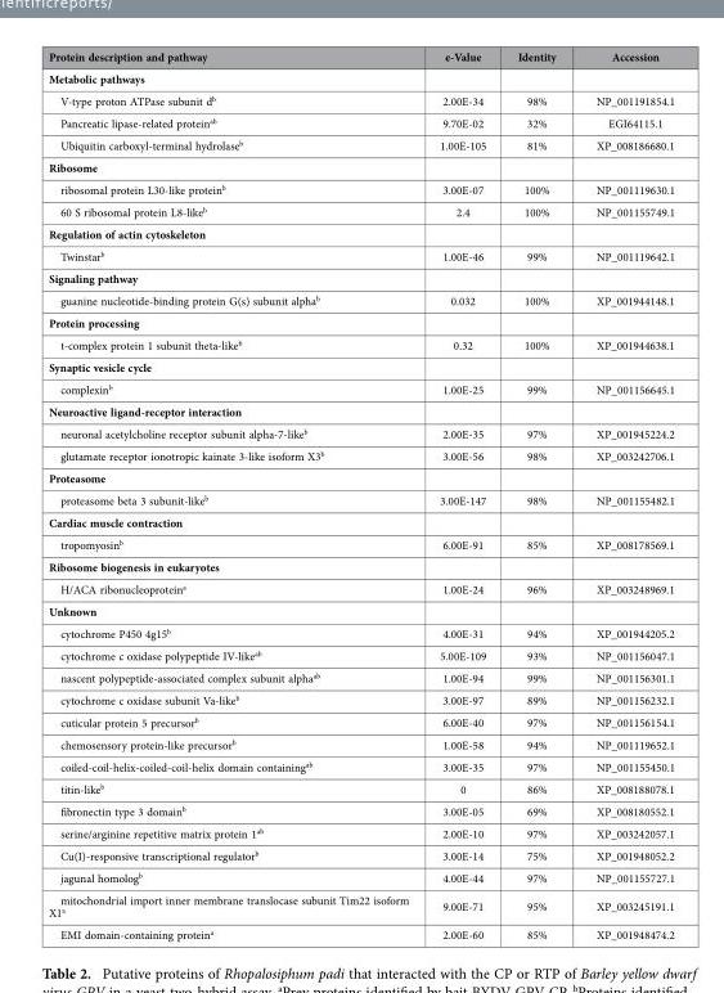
<table><thead><tr><td>Protein description and pathway</td><td>e-Value</td><td>Identity</td><td>Accession</td></tr></thead><tbody><tr><td colspan="4">Metabolic pathways</td></tr><tr><td>V-type proton ATPase subunit d<sup>b</sup></td><td>2.00E-34</td><td>98%</td><td>NP_001191854.1</td></tr><tr><td>Pancreatic lipase-related protein<sup>ab</sup></td><td>9.70E-02</td><td>32%</td><td>EGI64115.1</td></tr><tr><td>Ubiquitin carboxyl-terminal hydrolase<sup>b</sup></td><td>1.00E-105</td><td>81%</td><td>XP_008186680.1</td></tr><tr><td colspan="4">Ribosome</td></tr><tr><td>ribosomal protein L30-like protein<sup>b</sup></td><td>3.00E-07</td><td>100%</td><td>NP_001119630.1</td></tr><tr><td>60 S ribosomal protein L8-like<sup>b</sup></td><td>2.4</td><td>100%</td><td>NP_001155749.1</td></tr><tr><td colspan="4">Regulation of actin cytoskeleton</td></tr><tr><td>Twinstar<sup>b</sup></td><td>1.00E-46</td><td>99%</td><td>NP_001119642.1</td></tr><tr><td colspan="4">Signaling pathway</td></tr><tr><td>guanine nucleotide-binding protein G(s) subunit alpha<sup>b</sup></td><td>0.032</td><td>100%</td><td>XP_001944148.1</td></tr><tr><td colspan="4">Protein processing</td></tr><tr><td>t-complex protein 1 subunit theta-like<sup>b</sup></td><td>0.32</td><td>100%</td><td>XP_001944638.1</td></tr><tr><td colspan="4">Synaptic vesicle cycle</td></tr><tr><td>complexin<sup>b</sup></td><td>1.00E-25</td><td>99%</td><td>NP_001156645.1</td></tr><tr><td colspan="4">Neuroactive ligand-receptor interaction</td></tr><tr><td>neuronal acetylcholine receptor subunit alpha-7-like<sup>b</sup></td><td>2.00E-35</td><td>97%</td><td>XP_001945224.2</td></tr><tr><td>glutamate receptor ionotropic kainate 3-like isoform X3<sup>b</sup></td><td>3.00E-56</td><td>98%</td><td>XP_003242706.1</td></tr><tr><td colspan="4">Proteasome</td></tr><tr><td>proteasome beta 3 subunit-like<sup>b</sup></td><td>3.00E-147</td><td>98%</td><td>NP_001155482.1</td></tr><tr><td colspan="4">Cardiac muscle contraction</td></tr><tr><td>tropomyosin<sup>b</sup></td><td>6.00E-91</td><td>85%</td><td>XP_008178569.1</td></tr><tr><td colspan="4">Ribosome biogenesis in eukaryotes</td></tr><tr><td>H/ACA ribonucleoprotein<sup>a</sup></td><td>1.00E-24</td><td>96%</td><td>XP_003248969.1</td></tr><tr><td colspan="4">Unknown</td></tr><tr><td>cytochrome P450 4g15<sup>b</sup></td><td>4.00E-31</td><td>94%</td><td>XP_001944205.2</td></tr><tr><td>cytochrome c oxidase polypeptide IV-like<sup>ab</sup></td><td>5.00E-109</td><td>93%</td><td>NP_001156047.1</td></tr><tr><td>nascent polypeptide-associated complex subunit alpha<sup>ab</sup></td><td>1.00E-94</td><td>99%</td><td>NP_001156301.1</td></tr><tr><td>cytochrome c oxidase subunit Va-like<sup>b</sup></td><td>3.00E-97</td><td>89%</td><td>NP_001156232.1</td></tr><tr><td>cuticular protein 5 precursor<sup>b</sup></td><td>6.00E-40</td><td>97%</td><td>NP_001156154.1</td></tr><tr><td>chemosensory protein-like precursor<sup>b</sup></td><td>1.00E-58</td><td>94%</td><td>NP_001119652.1</td></tr><tr><td>coiled-coil-helix-coiled-coil-helix domain containing<sup>ab</sup></td><td>3.00E-35</td><td>97%</td><td>NP_001155450.1</td></tr><tr><td>titin-like<sup>b</sup></td><td>0</td><td>86%</td><td>XP_008188078.1</td></tr><tr><td>fibronectin type 3 domain<sup>b</sup></td><td>3.00E-05</td><td>69%</td><td>XP_008180552.1</td></tr><tr><td>serine/arginine repetitive matrix protein 1<sup>ab</sup></td><td>2.00E-10</td><td>97%</td><td>XP_003242057.1</td></tr><tr><td>Cu(I)-responsive transcriptional regulator<sup>b</sup></td><td>3.00E-14</td><td>75%</td><td>XP_001948052.2</td></tr><tr><td>jagunal homolog<sup>b</sup></td><td>4.00E-44</td><td>97%</td><td>NP_001155727.1</td></tr><tr><td>mitochondrial import inner membrane translocase subunit Tim22 isoform X1<sup>a</sup></td><td>9.00E-71</td><td>95%</td><td>XP_003245191.1</td></tr><tr><td>EMI domain-containing protein<sup>a</sup></td><td>2.00E-60</td><td>85%</td><td>XP_001948474.2</td></tr></tbody></table>